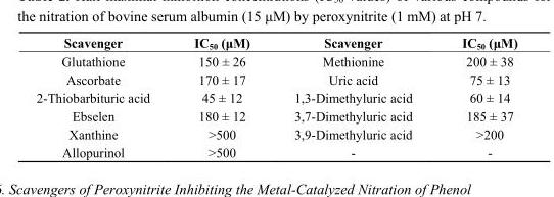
<table><thead><tr><td>Scavenger</td><td>IC<sub>50</sub> (μM)</td><td>Scavenger</td><td>IC<sub>50</sub> (μM)</td></tr></thead><tbody><tr><td>Glutathione</td><td>150 ± 26</td><td>Methionine</td><td>200 ± 38</td></tr><tr><td>Ascorbate</td><td>170 ± 17</td><td>Uric acid</td><td>75 ± 13</td></tr><tr><td>2-Thiobarbituric acid</td><td>45 ± 12</td><td>1,3-Dimethyluric acid</td><td>60 ± 14</td></tr><tr><td>Ebselen</td><td>180 ± 12</td><td>3,7-Dimethyluric acid</td><td>185 ± 37</td></tr><tr><td>Xanthine</td><td>&gt;500</td><td>3,9-Dimethyluric acid</td><td>&gt;200</td></tr><tr><td>Allopurinol</td><td>&gt;500</td><td>-</td><td>-</td></tr></tbody></table>